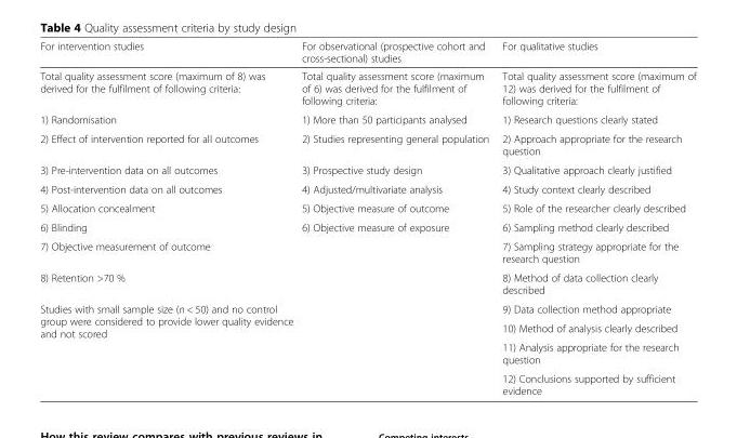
<table><thead><tr><td>For intervention studies</td><td>For observational (prospective cohort and cross-sectional) studies</td><td>For qualitative studies</td></tr></thead><tbody><tr><td>Total quality assessment score (maximum of 8) was derived for the fulfilment of following criteria:</td><td>Total quality assessment score (maximum of 6) was derived for the fulfilment of following criteria:</td><td>Total quality assessment score (maximum of 12) was derived for the fulfilment of following criteria:</td></tr><tr><td>1) Randomisation</td><td>1) More than 50 participants analysed</td><td>1) Research questions clearly stated</td></tr><tr><td>2) Effect of intervention reported for all outcomes</td><td>2) Studies representing general population</td><td>2) Approach appropriate for the research question</td></tr><tr><td>3) Pre-intervention data on all outcomes</td><td>3) Prospective study design</td><td>3) Qualitative approach clearly justified</td></tr><tr><td>4) Post-intervention data on all outcomes</td><td>4) Adjusted/multivariate analysis</td><td>4) Study context clearly described</td></tr><tr><td>5) Allocation concealment</td><td>5) Objective measure of outcome</td><td>5) Role of the researcher clearly described</td></tr><tr><td>6) Blinding</td><td>6) Objective measure of exposure</td><td>6) Sampling method clearly described</td></tr><tr><td>7) Objective measurement of outcome</td><td></td><td>7) Sampling strategy appropriate for the research question</td></tr><tr><td>8) Retention &gt;70 %</td><td></td><td>8) Method of data collection clearly described</td></tr><tr><td rowspan="4">Studies with small sample size (n &lt; 50) and no control group were considered to provide lower quality evidence and not scored</td><td></td><td>9) Data collection method appropriate</td></tr><tr><td></td><td>10) Method of analysis clearly described</td></tr><tr><td></td><td>11) Analysis appropriate for the research question</td></tr><tr><td></td><td>12) Conclusions supported by sufficient evidence</td></tr></tbody></table>